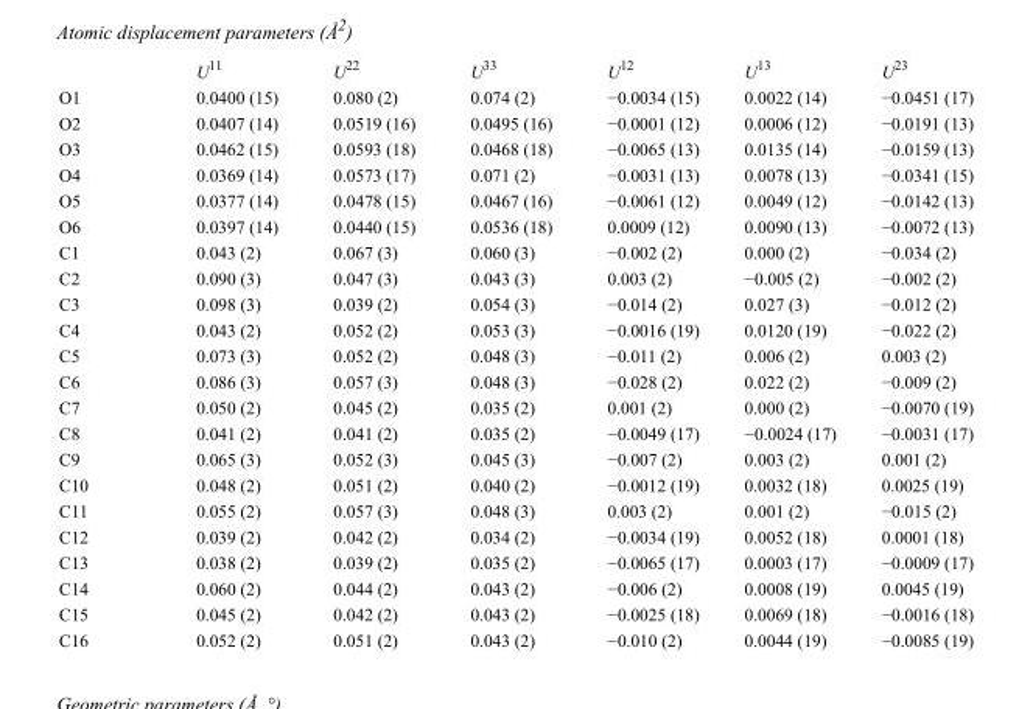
<table><thead><tr><td></td><td>U<sup>11</sup></td><td>U<sup>22</sup></td><td>U<sup>33</sup></td><td>U<sup>12</sup></td><td>U<sup>13</sup></td><td>U<sup>23</sup></td></tr></thead><tbody><tr><td>O1</td><td>0.0400 (15)</td><td>0.080 (2)</td><td>0.074 (2)</td><td>−0.0034 (15)</td><td>0.0022 (14)</td><td>−0.0451 (17)</td></tr><tr><td>O2</td><td>0.0407 (14)</td><td>0.0519 (16)</td><td>0.0495 (16)</td><td>−0.0001 (12)</td><td>0.0006 (12)</td><td>−0.0191 (13)</td></tr><tr><td>O3</td><td>0.0462 (15)</td><td>0.0593 (18)</td><td>0.0468 (18)</td><td>−0.0065 (13)</td><td>0.0135 (14)</td><td>−0.0159 (13)</td></tr><tr><td>O4</td><td>0.0369 (14)</td><td>0.0573 (17)</td><td>0.071 (2)</td><td>−0.0031 (13)</td><td>0.0078 (13)</td><td>−0.0341 (15)</td></tr><tr><td>O5</td><td>0.0377 (14)</td><td>0.0478 (15)</td><td>0.0467 (16)</td><td>−0.0061 (12)</td><td>0.0049 (12)</td><td>−0.0142 (13)</td></tr><tr><td>O6</td><td>0.0397 (14)</td><td>0.0440 (15)</td><td>0.0536 (18)</td><td>0.0009 (12)</td><td>0.0090 (13)</td><td>−0.0072 (13)</td></tr><tr><td>C1</td><td>0.043 (2)</td><td>0.067 (3)</td><td>0.060 (3)</td><td>−0.002 (2)</td><td>0.000 (2)</td><td>−0.034 (2)</td></tr><tr><td>C2</td><td>0.090 (3)</td><td>0.047 (3)</td><td>0.043 (3)</td><td>0.003 (2)</td><td>−0.005 (2)</td><td>−0.002 (2)</td></tr><tr><td>C3</td><td>0.098 (3)</td><td>0.039 (2)</td><td>0.054 (3)</td><td>−0.014 (2)</td><td>0.027 (3)</td><td>−0.012 (2)</td></tr><tr><td>C4</td><td>0.043 (2)</td><td>0.052 (2)</td><td>0.053 (3)</td><td>−0.0016 (19)</td><td>0.0120 (19)</td><td>−0.022 (2)</td></tr><tr><td>C5</td><td>0.073 (3)</td><td>0.052 (2)</td><td>0.048 (3)</td><td>−0.011 (2)</td><td>0.006 (2)</td><td>0.003 (2)</td></tr><tr><td>C6</td><td>0.086 (3)</td><td>0.057 (3)</td><td>0.048 (3)</td><td>−0.028 (2)</td><td>0.022 (2)</td><td>−0.009 (2)</td></tr><tr><td>C7</td><td>0.050 (2)</td><td>0.045 (2)</td><td>0.035 (2)</td><td>0.001 (2)</td><td>0.000 (2)</td><td>−0.0070 (19)</td></tr><tr><td>C8</td><td>0.041 (2)</td><td>0.041 (2)</td><td>0.035 (2)</td><td>−0.0049 (17)</td><td>−0.0024 (17)</td><td>−0.0031 (17)</td></tr><tr><td>C9</td><td>0.065 (3)</td><td>0.052 (3)</td><td>0.045 (3)</td><td>−0.007 (2)</td><td>0.003 (2)</td><td>0.001 (2)</td></tr><tr><td>C10</td><td>0.048 (2)</td><td>0.051 (2)</td><td>0.040 (2)</td><td>−0.0012 (19)</td><td>0.0032 (18)</td><td>0.0025 (19)</td></tr><tr><td>C11</td><td>0.055 (2)</td><td>0.057 (3)</td><td>0.048 (3)</td><td>0.003 (2)</td><td>0.001 (2)</td><td>−0.015 (2)</td></tr><tr><td>C12</td><td>0.039 (2)</td><td>0.042 (2)</td><td>0.034 (2)</td><td>−0.0034 (19)</td><td>0.0052 (18)</td><td>0.0001 (18)</td></tr><tr><td>C13</td><td>0.038 (2)</td><td>0.039 (2)</td><td>0.035 (2)</td><td>−0.0065 (17)</td><td>0.0003 (17)</td><td>−0.0009 (17)</td></tr><tr><td>C14</td><td>0.060 (2)</td><td>0.044 (2)</td><td>0.043 (2)</td><td>−0.006 (2)</td><td>0.0008 (19)</td><td>0.0045 (19)</td></tr><tr><td>C15</td><td>0.045 (2)</td><td>0.042 (2)</td><td>0.043 (2)</td><td>−0.0025 (18)</td><td>0.0069 (18)</td><td>−0.0016 (18)</td></tr><tr><td>C16</td><td>0.052 (2)</td><td>0.051 (2)</td><td>0.043 (2)</td><td>−0.010 (2)</td><td>0.0044 (19)</td><td>−0.0085 (19)</td></tr></tbody></table>